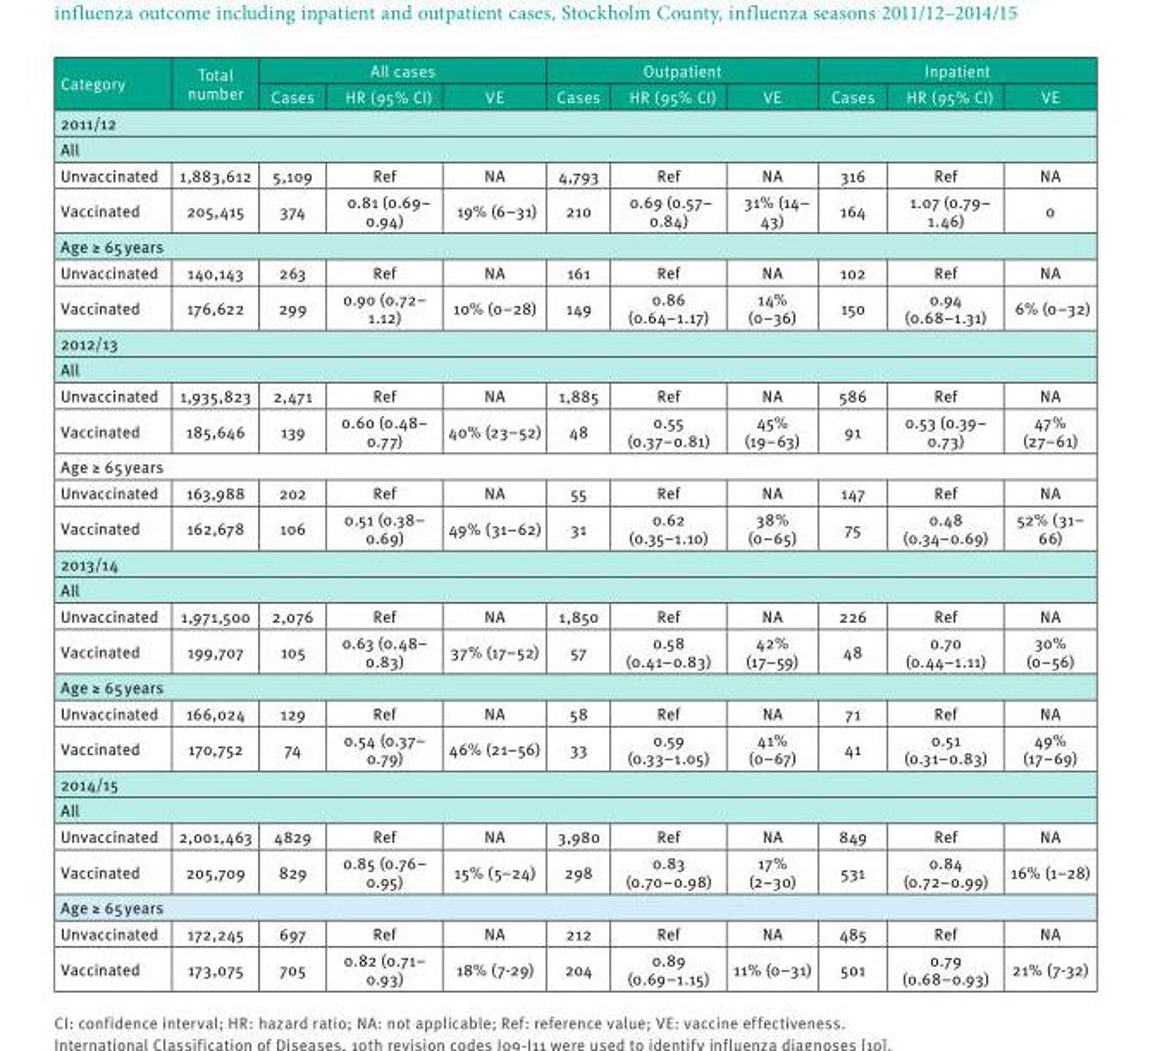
<table><thead><tr><td rowspan="2">Category</td><td rowspan="2">Total number</td><td colspan="3">All cases</td><td colspan="3">Outpatient</td><td colspan="3">Inpatient</td></tr><tr><td>Cases</td><td>HR (95% CI)</td><td>VE</td><td>Cases</td><td>HR (95% CI)</td><td>VE</td><td>Cases</td><td>HR (95% CI)</td><td>VE</td></tr></thead><tbody><tr><td colspan="11">2011/12</td></tr><tr><td colspan="11">All</td></tr><tr><td>Unvaccinated</td><td>1,883,612</td><td>5,109</td><td>Ref</td><td>NA</td><td>4,793</td><td>Ref</td><td>NA</td><td>316</td><td>Ref</td><td>NA</td></tr><tr><td>Vaccinated</td><td>205,415</td><td>374</td><td>0.81 (0.69– 0.94)</td><td>19% (6–31)</td><td>210</td><td>0.69 (0.57– 0.84)</td><td>31% (14– 43)</td><td>164</td><td>1.07 (0.79– 1.46)</td><td>0</td></tr><tr><td colspan="11">Age ≥ 65 years</td></tr><tr><td>Unvaccinated</td><td>140,143</td><td>263</td><td>Ref</td><td>NA</td><td>161</td><td>Ref</td><td>NA</td><td>102</td><td>Ref</td><td>NA</td></tr><tr><td>Vaccinated</td><td>176,622</td><td>299</td><td>0.90 (0.72– 1.12)</td><td>10% (0–28)</td><td>149</td><td>0.86 (0.64–1.17)</td><td>14% (0–36)</td><td>150</td><td>0.94 (0.68–1.31)</td><td>6% (0–32)</td></tr><tr><td colspan="11">2012/13</td></tr><tr><td colspan="11">All</td></tr><tr><td>Unvaccinated</td><td>1,935,823</td><td>2,471</td><td>Ref</td><td>NA</td><td>1,885</td><td>Ref</td><td>NA</td><td>586</td><td>Ref</td><td>NA</td></tr><tr><td>Vaccinated</td><td>185,646</td><td>139</td><td>0.60 (0.48– 0.77)</td><td>40% (23–52)</td><td>48</td><td>0.55 (0.37–0.81)</td><td>45% (19–63)</td><td>91</td><td>0.53 (0.39– 0.73)</td><td>47% (27–61)</td></tr><tr><td colspan="11">Age ≥ 65 years</td></tr><tr><td>Unvaccinated</td><td>163,988</td><td>202</td><td>Ref</td><td>NA</td><td>55</td><td>Ref</td><td>NA</td><td>147</td><td>Ref</td><td>NA</td></tr><tr><td>Vaccinated</td><td>162,678</td><td>106</td><td>0.51 (0.38– 0.69)</td><td>49% (31–62)</td><td>31</td><td>0.62 (0.35–1.10)</td><td>38% (0–65)</td><td>75</td><td>0.48 (0.34–0.69)</td><td>52% (31– 66)</td></tr><tr><td colspan="11">2013/14</td></tr><tr><td colspan="11">All</td></tr><tr><td>Unvaccinated</td><td>1,971,500</td><td>2,076</td><td>Ref</td><td>NA</td><td>1,850</td><td>Ref</td><td>NA</td><td>226</td><td>Ref</td><td>NA</td></tr><tr><td>Vaccinated</td><td>199,707</td><td>105</td><td>0.63 (0.48– 0.83)</td><td>37% (17–52)</td><td>57</td><td>0.58 (0.41–0.83)</td><td>42% (17–59)</td><td>48</td><td>0.70 (0.44–1.11)</td><td>30% (0–56)</td></tr><tr><td colspan="11">Age ≥ 65 years</td></tr><tr><td>Unvaccinated</td><td>166,024</td><td>129</td><td>Ref</td><td>NA</td><td>58</td><td>Ref</td><td>NA</td><td>71</td><td>Ref</td><td>NA</td></tr><tr><td>Vaccinated</td><td>170,752</td><td>74</td><td>0.54 (0.37– 0.79)</td><td>46% (21–56)</td><td>33</td><td>0.59 (0.33–1.05)</td><td>41% (0–67)</td><td>41</td><td>0.51 (0.31–0.83)</td><td>49% (17–69)</td></tr><tr><td colspan="11">2014/15</td></tr><tr><td colspan="11">All</td></tr><tr><td>Unvaccinated</td><td>2,001,463</td><td>4829</td><td>Ref</td><td>NA</td><td>3,980</td><td>Ref</td><td>NA</td><td>849</td><td>Ref</td><td>NA</td></tr><tr><td>Vaccinated</td><td>205,709</td><td>829</td><td>0.85 (0.76– 0.95)</td><td>15% (5–24)</td><td>298</td><td>0.83 (0.70–0.98)</td><td>17% (2–30)</td><td>531</td><td>0.84 (0.72–0.99)</td><td>16% (1–28)</td></tr><tr><td colspan="11">Age ≥ 65 years</td></tr><tr><td>Unvaccinated</td><td>172,245</td><td>697</td><td>Ref</td><td>NA</td><td>212</td><td>Ref</td><td>NA</td><td>485</td><td>Ref</td><td>NA</td></tr><tr><td>Vaccinated</td><td>173,075</td><td>705</td><td>0.82 (0.71– 0.93)</td><td>18% (7-29)</td><td>204</td><td>0.89 (0.69–1.15)</td><td>11% (0–31)</td><td>501</td><td>0.79 (0.68–0.93)</td><td>21% (7-32)</td></tr></tbody></table>